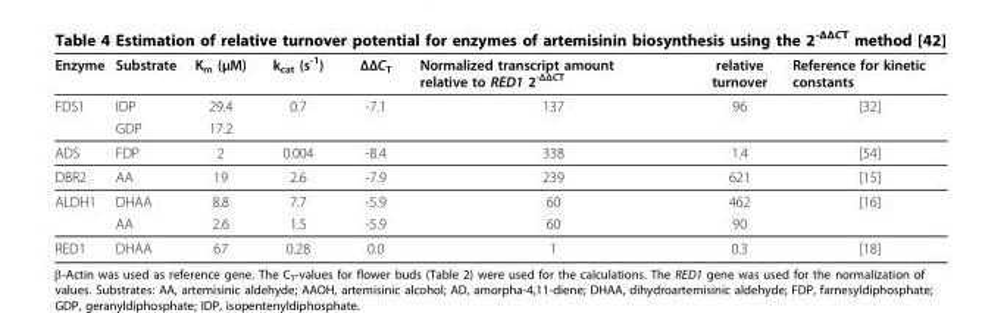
<table><thead><tr><td>Enzyme</td><td>Substrate</td><td>K<sub>m</sub> (μM)</td><td>k<sub>cat</sub> (s<sup>-1</sup>)</td><td>ΔΔC<sub>T</sub></td><td>Normalized transcript amount relative to RED1 2<sup>-ΔΔCT</sup></td><td>relative turnover</td><td>Reference for kinetic constants</td></tr></thead><tbody><tr><td rowspan="2">FDS1</td><td>IDP</td><td>29.4</td><td>0.7</td><td>-7.1</td><td>137</td><td>96</td><td>[32]</td></tr><tr><td>GDP</td><td>17.2</td><td></td><td></td><td></td><td></td><td></td></tr><tr><td>ADS</td><td>FDP</td><td>2</td><td>0.004</td><td>-8.4</td><td>338</td><td>1.4</td><td>[54]</td></tr><tr><td>DBR2</td><td>AA</td><td>19</td><td>2.6</td><td>-7.9</td><td>239</td><td>621</td><td>[15]</td></tr><tr><td rowspan="2">ALDH1</td><td>DHAA</td><td>8.8</td><td>7.7</td><td>-5.9</td><td>60</td><td>462</td><td>[16]</td></tr><tr><td>AA</td><td>2.6</td><td>1.5</td><td>-5.9</td><td>60</td><td>90</td><td></td></tr><tr><td>RED1</td><td>DHAA</td><td>67</td><td>0.28</td><td>0.0</td><td>1</td><td>0.3</td><td>[18]</td></tr></tbody></table>